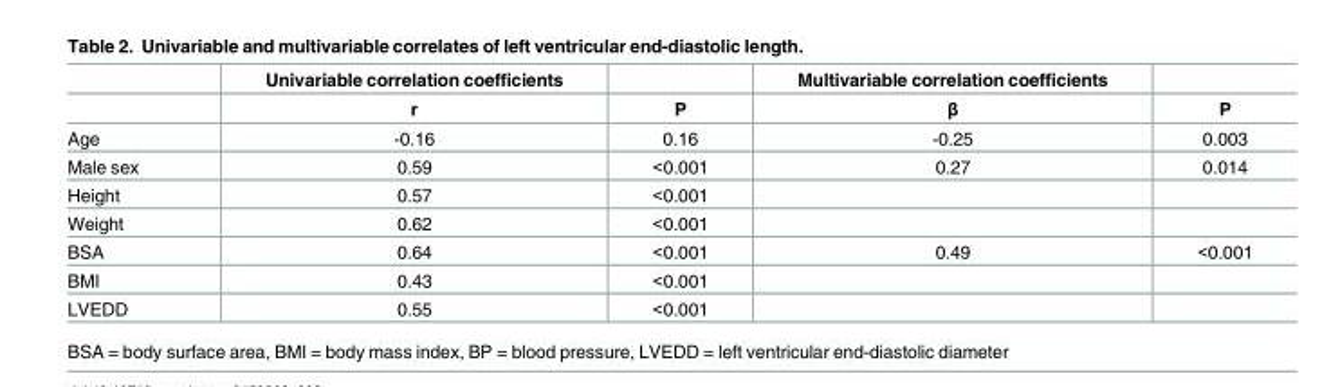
<table><thead><tr><td rowspan="2"></td><td rowspan="2">Univariable correlation coefficients r</td><td rowspan="2">P</td><td rowspan="2">Multivariable correlation coefficients β</td><td rowspan="2">P</td></tr><tr></tr></thead><tbody><tr><td>Age</td><td>-0.16</td><td>0.16</td><td>-0.25</td><td>0.003</td></tr><tr><td>Male sex</td><td>0.59</td><td>&lt;0.001</td><td>0.27</td><td>0.014</td></tr><tr><td>Height</td><td>0.57</td><td>&lt;0.001</td><td></td><td></td></tr><tr><td>Weight</td><td>0.62</td><td>&lt;0.001</td><td></td><td></td></tr><tr><td>BSA</td><td>0.64</td><td>&lt;0.001</td><td>0.49</td><td>&lt;0.001</td></tr><tr><td>BMI</td><td>0.43</td><td>&lt;0.001</td><td></td><td></td></tr><tr><td>LVEDD</td><td>0.55</td><td>&lt;0.001</td><td></td><td></td></tr></tbody></table>